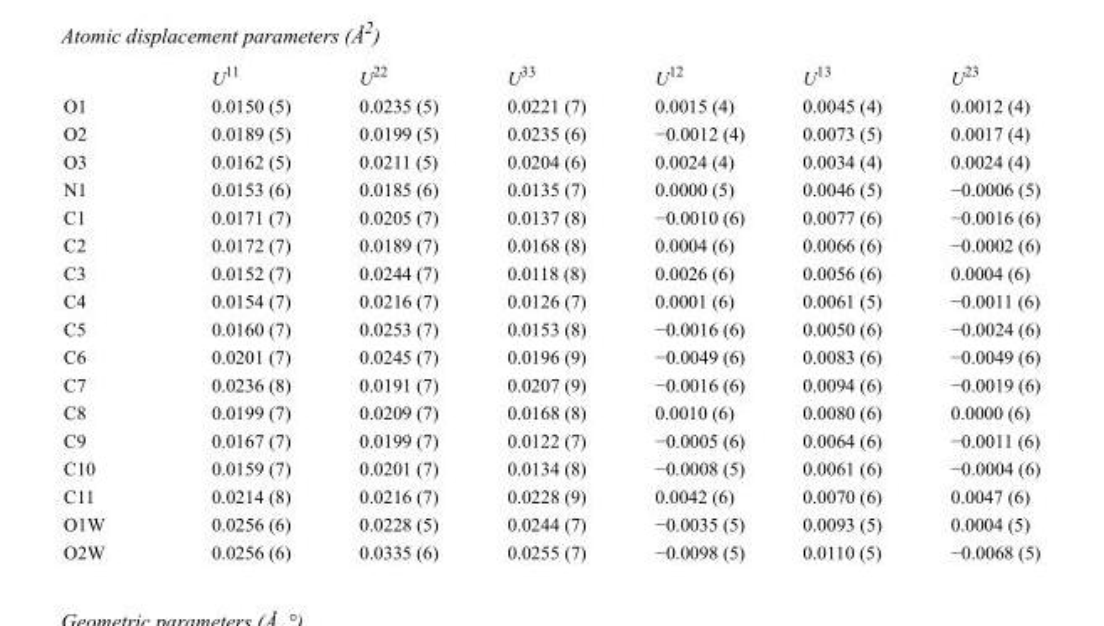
<table><thead><tr><td></td><td>U<sup>11</sup></td><td>U<sup>22</sup></td><td>U<sup>33</sup></td><td>U<sup>12</sup></td><td>U<sup>13</sup></td><td>U<sup>23</sup></td></tr></thead><tbody><tr><td>O1</td><td>0.0150 (5)</td><td>0.0235 (5)</td><td>0.0221 (7)</td><td>0.0015 (4)</td><td>0.0045 (4)</td><td>0.0012 (4)</td></tr><tr><td>O2</td><td>0.0189 (5)</td><td>0.0199 (5)</td><td>0.0235 (6)</td><td>−0.0012 (4)</td><td>0.0073 (5)</td><td>0.0017 (4)</td></tr><tr><td>O3</td><td>0.0162 (5)</td><td>0.0211 (5)</td><td>0.0204 (6)</td><td>0.0024 (4)</td><td>0.0034 (4)</td><td>0.0024 (4)</td></tr><tr><td>N1</td><td>0.0153 (6)</td><td>0.0185 (6)</td><td>0.0135 (7)</td><td>0.0000 (5)</td><td>0.0046 (5)</td><td>−0.0006 (5)</td></tr><tr><td>C1</td><td>0.0171 (7)</td><td>0.0205 (7)</td><td>0.0137 (8)</td><td>−0.0010 (6)</td><td>0.0077 (6)</td><td>−0.0016 (6)</td></tr><tr><td>C2</td><td>0.0172 (7)</td><td>0.0189 (7)</td><td>0.0168 (8)</td><td>0.0004 (6)</td><td>0.0066 (6)</td><td>−0.0002 (6)</td></tr><tr><td>C3</td><td>0.0152 (7)</td><td>0.0244 (7)</td><td>0.0118 (8)</td><td>0.0026 (6)</td><td>0.0056 (6)</td><td>0.0004 (6)</td></tr><tr><td>C4</td><td>0.0154 (7)</td><td>0.0216 (7)</td><td>0.0126 (7)</td><td>0.0001 (6)</td><td>0.0061 (5)</td><td>−0.0011 (6)</td></tr><tr><td>C5</td><td>0.0160 (7)</td><td>0.0253 (7)</td><td>0.0153 (8)</td><td>−0.0016 (6)</td><td>0.0050 (6)</td><td>−0.0024 (6)</td></tr><tr><td>C6</td><td>0.0201 (7)</td><td>0.0245 (7)</td><td>0.0196 (9)</td><td>−0.0049 (6)</td><td>0.0083 (6)</td><td>−0.0049 (6)</td></tr><tr><td>C7</td><td>0.0236 (8)</td><td>0.0191 (7)</td><td>0.0207 (9)</td><td>−0.0016 (6)</td><td>0.0094 (6)</td><td>−0.0019 (6)</td></tr><tr><td>C8</td><td>0.0199 (7)</td><td>0.0209 (7)</td><td>0.0168 (8)</td><td>0.0010 (6)</td><td>0.0080 (6)</td><td>0.0000 (6)</td></tr><tr><td>C9</td><td>0.0167 (7)</td><td>0.0199 (7)</td><td>0.0122 (7)</td><td>−0.0005 (6)</td><td>0.0064 (6)</td><td>−0.0011 (6)</td></tr><tr><td>C10</td><td>0.0159 (7)</td><td>0.0201 (7)</td><td>0.0134 (8)</td><td>−0.0008 (5)</td><td>0.0061 (6)</td><td>−0.0004 (6)</td></tr><tr><td>C11</td><td>0.0214 (8)</td><td>0.0216 (7)</td><td>0.0228 (9)</td><td>0.0042 (6)</td><td>0.0070 (6)</td><td>0.0047 (6)</td></tr><tr><td>O1W</td><td>0.0256 (6)</td><td>0.0228 (5)</td><td>0.0244 (7)</td><td>−0.0035 (5)</td><td>0.0093 (5)</td><td>0.0004 (5)</td></tr><tr><td>O2W</td><td>0.0256 (6)</td><td>0.0335 (6)</td><td>0.0255 (7)</td><td>−0.0098 (5)</td><td>0.0110 (5)</td><td>−0.0068 (5)</td></tr></tbody></table>